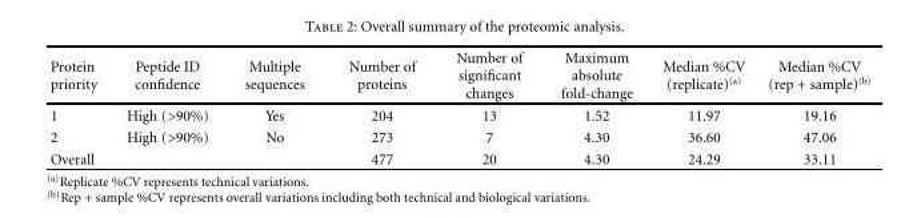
<table><thead><tr><td>Protein priority</td><td>Peptide ID confidence</td><td>Multiple sequences</td><td>Number of proteins</td><td>Number of significant changes</td><td>Maximum absolute fold-change</td><td>Median %CV (replicate)<sup>(a)</sup></td><td>Median %CV (rep + sample)<sup>(b)</sup></td></tr></thead><tbody><tr><td>1</td><td>High (&gt;90%)</td><td>Yes</td><td>204</td><td>13</td><td>1.52</td><td>11.97</td><td>19.16</td></tr><tr><td>2</td><td>High (&gt;90%)</td><td>No</td><td>273</td><td>7</td><td>4.30</td><td>36.60</td><td>47.06</td></tr><tr><td>Overall</td><td></td><td></td><td>477</td><td>20</td><td>4.30</td><td>24.29</td><td>33.11</td></tr></tbody></table>